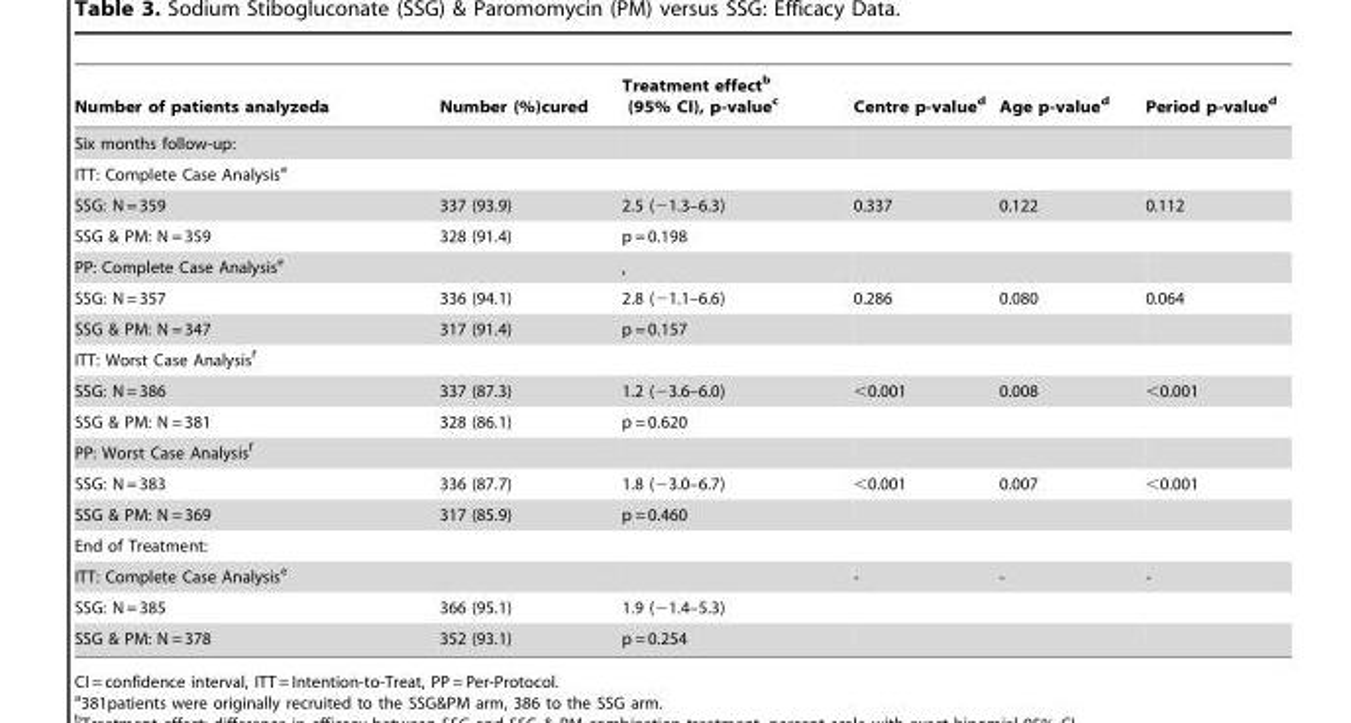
<table><thead><tr><td>Number of patients analyzeda</td><td>Number (%)cured</td><td>Treatment effect<sup>b</sup> (95% CI), p-value<sup>c</sup></td><td>Centre p-value<sup>d</sup></td><td>Age p-value<sup>d</sup></td><td>Period p-value<sup>d</sup></td></tr></thead><tbody><tr><td colspan="6">Six months follow-up:</td></tr><tr><td colspan="6">ITT: Complete Case Analysis<sup>e</sup></td></tr><tr><td>SSG: N = 359</td><td>337 (93.9)</td><td>2.5 (−1.3–6.3)</td><td>0.337</td><td>0.122</td><td>0.112</td></tr><tr><td>SSG &amp; PM: N = 359</td><td>328 (91.4)</td><td>p = 0.198</td><td></td><td></td><td></td></tr><tr><td>PP: Complete Case Analysis<sup>e</sup></td><td></td><td>,</td><td></td><td></td><td></td></tr><tr><td>SSG: N = 357</td><td>336 (94.1)</td><td>2.8 (−1.1–6.6)</td><td>0.286</td><td>0.080</td><td>0.064</td></tr><tr><td>SSG &amp; PM: N = 347</td><td>317 (91.4)</td><td>p = 0.157</td><td></td><td></td><td></td></tr><tr><td colspan="6">ITT: Worst Case Analysis<sup>f</sup></td></tr><tr><td>SSG: N = 386</td><td>337 (87.3)</td><td>1.2 (−3.6–6.0)</td><td>&lt;0.001</td><td>0.008</td><td>&lt;0.001</td></tr><tr><td>SSG &amp; PM: N = 381</td><td>328 (86.1)</td><td>p = 0.620</td><td></td><td></td><td></td></tr><tr><td colspan="6">PP: Worst Case Analysis<sup>f</sup></td></tr><tr><td>SSG: N = 383</td><td>336 (87.7)</td><td>1.8 (−3.0–6.7)</td><td>&lt;0.001</td><td>0.007</td><td>&lt;0.001</td></tr><tr><td>SSG &amp; PM: N = 369</td><td>317 (85.9)</td><td>p = 0.460</td><td></td><td></td><td></td></tr><tr><td colspan="6">End of Treatment:</td></tr><tr><td>ITT: Complete Case Analysis<sup>e</sup></td><td></td><td></td><td>-</td><td>-</td><td>-</td></tr><tr><td>SSG: N = 385</td><td>366 (95.1)</td><td>1.9 (−1.4–5.3)</td><td></td><td></td><td></td></tr><tr><td>SSG &amp; PM: N = 378</td><td>352 (93.1)</td><td>p = 0.254</td><td></td><td></td><td></td></tr></tbody></table>